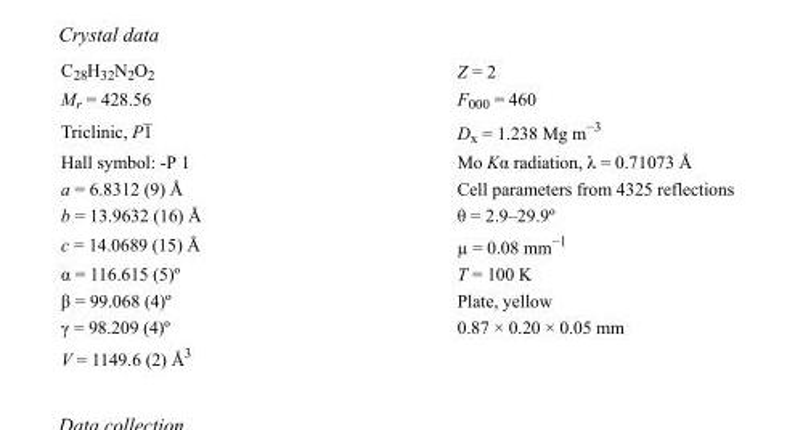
<table><tbody><tr><td>C<sub>28</sub>H<sub>32</sub>N<sub>2</sub>O<sub>2</sub></td><td>Z = 2</td></tr><tr><td>M<sub>r</sub> = 428.56</td><td>F000 = 460</td></tr><tr><td>Triclinic, P1</td><td>D<sub>x</sub> = 1.238 Mg m<sup>−3</sup></td></tr><tr><td>Hall symbol: -P 1</td><td>Mo Kα radiation, λ = 0.71073 Å</td></tr><tr><td>a = 6.8312 (9) Å</td><td>Cell parameters from 4325 reflections</td></tr><tr><td>b = 13.9632 (16) Å</td><td>θ = 2.9–29.9º</td></tr><tr><td>c = 14.0689 (15) Å</td><td>µ = 0.08 mm<sup>−1</sup></td></tr><tr><td>α = 116.615 (5)º</td><td>T = 100 K</td></tr><tr><td>β = 99.068 (4)º</td><td>Plate, yellow</td></tr><tr><td>γ = 98.209 (4)º</td><td>0.87 × 0.20 × 0.05 mm</td></tr><tr><td>V = 1149.6 (2) Å<sup>3</sup></td><td></td></tr></tbody></table>